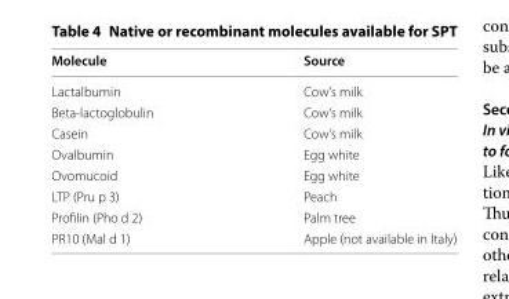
<table><thead><tr><td>Molecule</td><td>Source</td></tr></thead><tbody><tr><td>Lactalbumin</td><td>Cow’s milk</td></tr><tr><td>Beta‑lactoglobulin</td><td>Cow’s milk</td></tr><tr><td>Casein</td><td>Cow’s milk</td></tr><tr><td>Ovalbumin</td><td>Egg white</td></tr><tr><td>Ovomucoid</td><td>Egg white</td></tr><tr><td>LTP (Pru p 3)</td><td>Peach</td></tr><tr><td>Profilin (Pho d 2)</td><td>Palm tree</td></tr><tr><td>PR10 (Mal d 1)</td><td>Apple (not available in Italy)</td></tr></tbody></table>